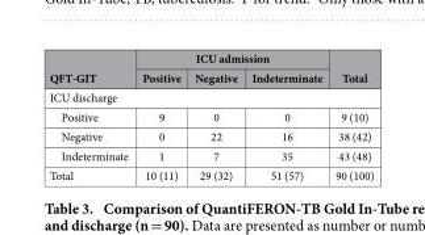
<table><thead><tr><td rowspan="2">QFT-GIT</td><td colspan="3">ICU admission</td><td rowspan="2">Total</td></tr><tr><td>Positive</td><td>Negative</td><td>Indeterminate</td></tr></thead><tbody><tr><td colspan="5">ICU discharge</td></tr><tr><td>Positive</td><td>9</td><td>0</td><td>0</td><td>9 (10)</td></tr><tr><td>Negative</td><td>0</td><td>22</td><td>16</td><td>38 (42)</td></tr><tr><td>Indeterminate</td><td>1</td><td>7</td><td>35</td><td>43 (48)</td></tr><tr><td>Total</td><td>10 (11)</td><td>29 (32)</td><td>51 (57)</td><td>90 (100)</td></tr></tbody></table>